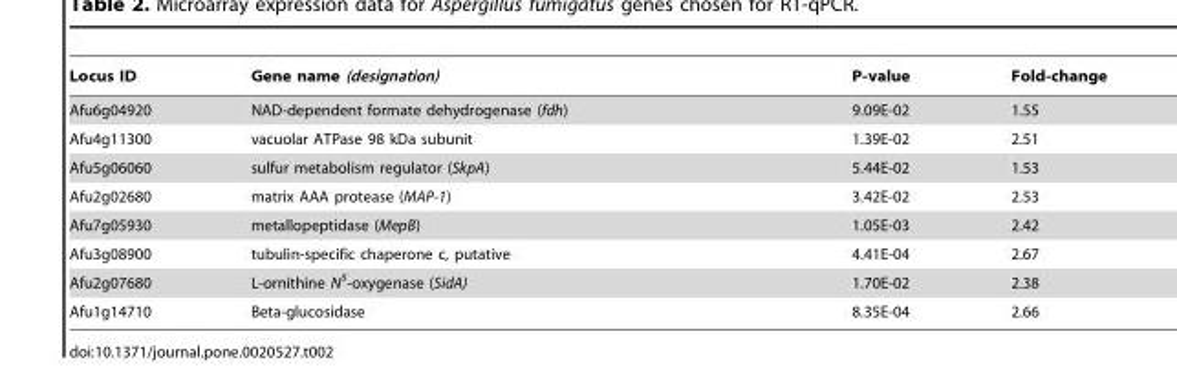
<table><thead><tr><td>Locus ID</td><td>Gene name (designation)</td><td>P-value</td><td>Fold-change</td></tr></thead><tbody><tr><td>Afu6g04920</td><td>NAD-dependent formate dehydrogenase (fdh)</td><td>9.09E-02</td><td>1.55</td></tr><tr><td>Afu4g11300</td><td>vacuolar ATPase 98 kDa subunit</td><td>1.39E-02</td><td>2.51</td></tr><tr><td>Afu5g06060</td><td>sulfur metabolism regulator (SkpA)</td><td>5.44E-02</td><td>1.53</td></tr><tr><td>Afu2g02680</td><td>matrix AAA protease (MAP-1)</td><td>3.42E-02</td><td>2.53</td></tr><tr><td>Afu7g05930</td><td>metallopeptidase (MepB)</td><td>1.05E-03</td><td>2.42</td></tr><tr><td>Afu3g08900</td><td>tubulin-specific chaperone c, putative</td><td>4.41E-04</td><td>2.67</td></tr><tr><td>Afu2g07680</td><td>L-ornithine N<sup>5</sup>-oxygenase (SidA)</td><td>1.70E-02</td><td>2.38</td></tr><tr><td>Afu1g14710</td><td>Beta-glucosidase</td><td>8.35E-04</td><td>2.66</td></tr></tbody></table>